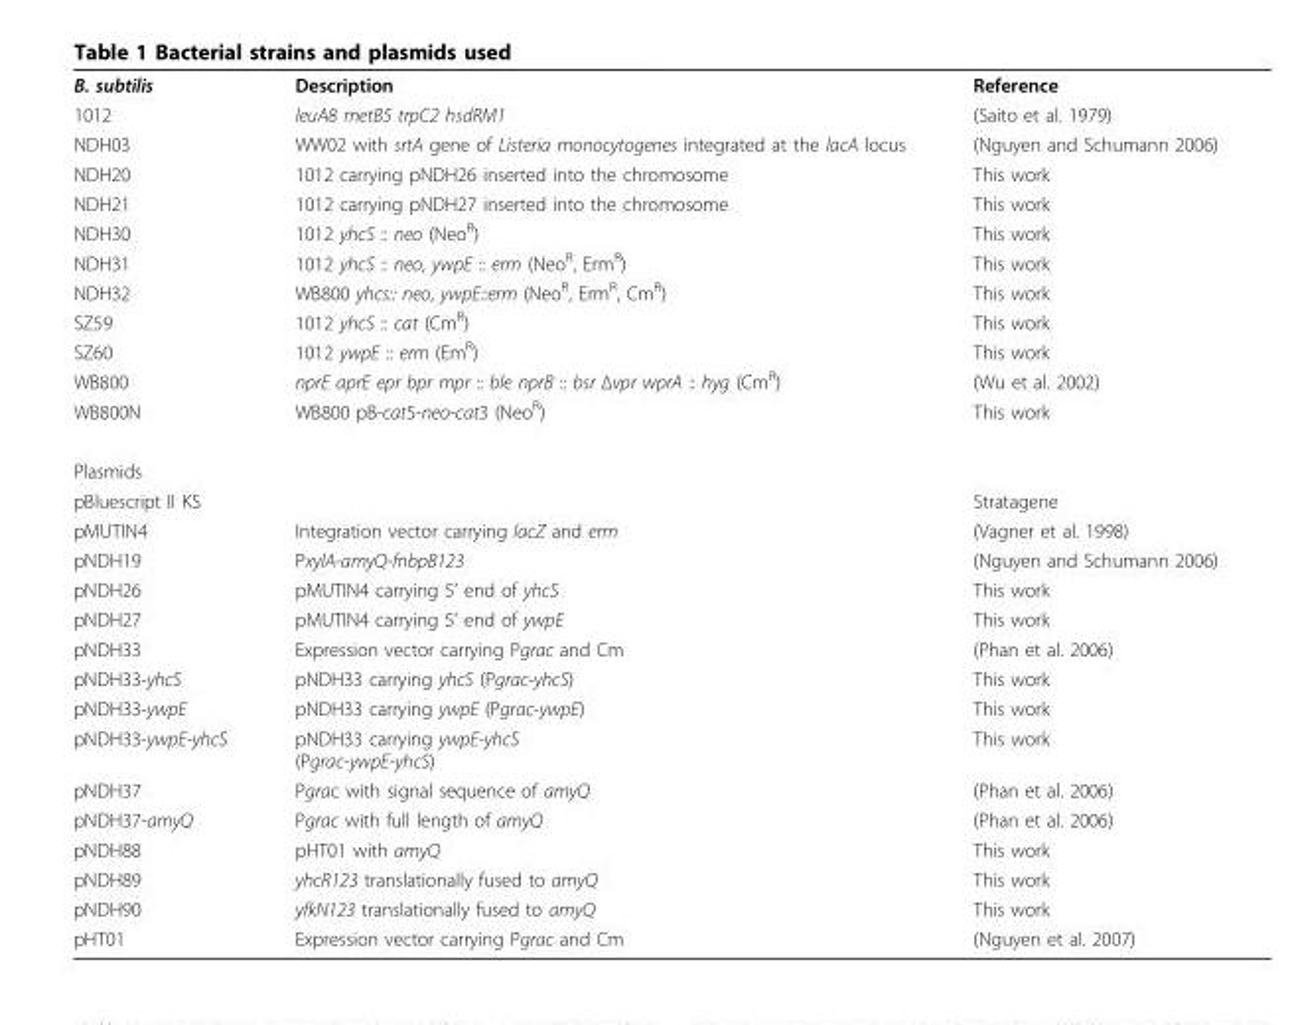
<table><tbody><tr><td>B. subtilis</td><td>Description</td><td>Reference</td></tr><tr><td>1012</td><td>leuA8 metB5 trpC2 hsdRM1</td><td>(Saito et al. 1979)</td></tr><tr><td>NDH03</td><td>WW02 with srtA gene of Listeria monocytogenes integrated at the lacA locus</td><td>(Nguyen and Schumann 2006)</td></tr><tr><td>NDH20</td><td>1012 carrying pNDH26 inserted into the chromosome</td><td>This work</td></tr><tr><td>NDH21</td><td>1012 carrying pNDH27 inserted into the chromosome</td><td>This work</td></tr><tr><td>NDH30</td><td>1012 yhcS :: neo (Neo<sup>R</sup>)</td><td>This work</td></tr><tr><td>NDH31</td><td>1012 yhcS :: neo, ywpE :: erm (Neo<sup>R</sup>, Erm<sup>R</sup>)</td><td>This work</td></tr><tr><td>NDH32</td><td>WB800 yhcs:: neo, ywpE::erm (Neo<sup>R</sup>, Erm<sup>R</sup>, Cm<sup>R</sup>)</td><td>This work</td></tr><tr><td>SZ59</td><td>1012 yhcS :: cat (Cm<sup>R</sup>)</td><td>This work</td></tr><tr><td>SZ60</td><td>1012 ywpE :: erm (Em<sup>R</sup>)</td><td>This work</td></tr><tr><td>WB800</td><td>nprE aprE epr bpr mpr :: ble nprB :: bsr Δvpr wprA :: hyg (Cm<sup>R</sup>)</td><td>(Wu et al. 2002)</td></tr><tr><td>WB800N</td><td>WB800 pB-cat5-neo-cat3 (Neo<sup>R</sup>)</td><td>This work</td></tr><tr><td colspan="3">Plasmids</td></tr><tr><td>pBluescript II KS</td><td></td><td>Stratagene</td></tr><tr><td>pMUTIN4</td><td>Integration vector carrying lacZ and erm</td><td>(Vagner et al. 1998)</td></tr><tr><td>pNDH19</td><td>PxylA-amyQ-fnbpB123</td><td>(Nguyen and Schumann 2006)</td></tr><tr><td>pNDH26</td><td>pMUTIN4 carrying 5’ end of yhcS</td><td>This work</td></tr><tr><td>pNDH27</td><td>pMUTIN4 carrying 5’ end of ywpE</td><td>This work</td></tr><tr><td>pNDH33</td><td>Expression vector carrying Pgrac and Cm</td><td>(Phan et al. 2006)</td></tr><tr><td>pNDH33-yhcS</td><td>pNDH33 carrying yhcS (Pgrac-yhcS)</td><td>This work</td></tr><tr><td>pNDH33-ywpE</td><td>pNDH33 carrying ywpE (Pgrac-ywpE)</td><td>This work</td></tr><tr><td>pNDH33-ywpE-yhcS</td><td>pNDH33 carrying ywpE-yhcS (Pgrac-ywpE-yhcS)</td><td>This work</td></tr><tr><td>pNDH37</td><td>Pgrac with signal sequence of amyQ</td><td>(Phan et al. 2006)</td></tr><tr><td>pNDH37-amyQ</td><td>Pgrac with full length of amyQ</td><td>(Phan et al. 2006)</td></tr><tr><td>pNDH88</td><td>pHT01 with amyQ</td><td>This work</td></tr><tr><td>pNDH89</td><td>yhcR123 translationally fused to amyQ</td><td>This work</td></tr><tr><td>pNDH90</td><td>yfkN123 translationally fused to amyQ</td><td>This work</td></tr><tr><td>pHT01</td><td>Expression vector carrying Pgrac and Cm</td><td>(Nguyen et al. 2007)</td></tr></tbody></table>